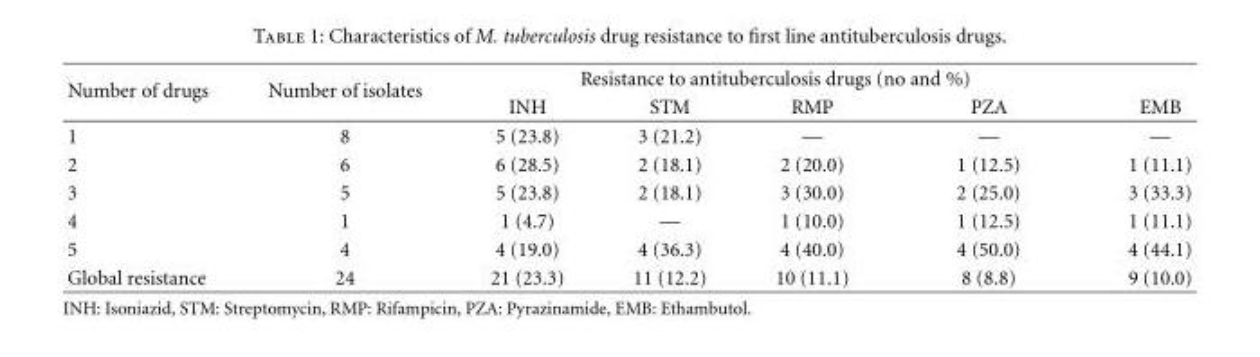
<table><thead><tr><td rowspan="2">Number of drugs</td><td rowspan="2">Number of isolates</td><td colspan="4">Resistance to antituberculosis drugs (no and %)</td><td rowspan="2">EMB</td></tr><tr><td>INH</td><td>STM</td><td>RMP</td><td>PZA</td></tr></thead><tbody><tr><td>1</td><td>8</td><td>5 (23.8)</td><td>3 (21.2)</td><td>—</td><td>—</td><td>—</td></tr><tr><td>2</td><td>6</td><td>6 (28.5)</td><td>2 (18.1)</td><td>2 (20.0)</td><td>1 (12.5)</td><td>1 (11.1)</td></tr><tr><td>3</td><td>5</td><td>5 (23.8)</td><td>2 (18.1)</td><td>3 (30.0)</td><td>2 (25.0)</td><td>3 (33.3)</td></tr><tr><td>4</td><td>1</td><td>1 (4.7)</td><td>—</td><td>1 (10.0)</td><td>1 (12.5)</td><td>1 (11.1)</td></tr><tr><td>5</td><td>4</td><td>4 (19.0)</td><td>4 (36.3)</td><td>4 (40.0)</td><td>4 (50.0)</td><td>4 (44.1)</td></tr><tr><td>Global resistance</td><td>24</td><td>21 (23.3)</td><td>11 (12.2)</td><td>10 (11.1)</td><td>8 (8.8)</td><td>9 (10.0)</td></tr></tbody></table>